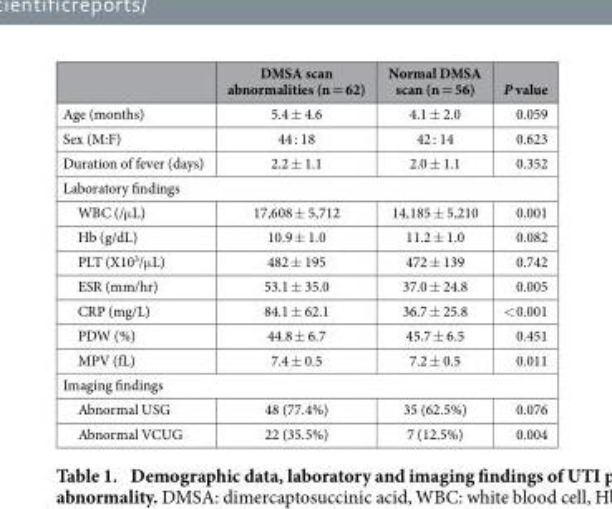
<table><thead><tr><td></td><td>DMSA scan abnormalities (n = 62)</td><td>Normal DMSA scan (n = 56)</td><td>P value</td></tr></thead><tbody><tr><td>Age (months)</td><td>5.4 ± 4.6</td><td>4.1 ± 2.0</td><td>0.059</td></tr><tr><td>Sex (M:F)</td><td>44 : 18</td><td>42 : 14</td><td>0.623</td></tr><tr><td>Duration of fever (days)</td><td>2.2 ± 1.1</td><td>2.0 ± 1.1</td><td>0.352</td></tr><tr><td colspan="4">Laboratory findings</td></tr><tr><td>WBC (/μ L)</td><td>17,608 ± 5,712</td><td>14,185 ± 5,210</td><td>0.001</td></tr><tr><td>Hb (g/dL)</td><td>10.9 ± 1.0</td><td>11.2 ± 1.0</td><td>0.082</td></tr><tr><td>PLT (X10<sup>3</sup>/μ L)</td><td>482 ± 195</td><td>472 ± 139</td><td>0.742</td></tr><tr><td>ESR (mm/hr)</td><td>53.1 ± 35.0</td><td>37.0 ± 24.8</td><td>0.005</td></tr><tr><td>CRP (mg/L)</td><td>84.1 ± 62.1</td><td>36.7 ± 25.8</td><td>&lt; 0.001</td></tr><tr><td>PDW (%)</td><td>44.8 ± 6.7</td><td>45.7 ± 6.5</td><td>0.451</td></tr><tr><td>MPV (fL)</td><td>7.4 ± 0.5</td><td>7.2 ± 0.5</td><td>0.011</td></tr><tr><td colspan="4">Imaging findings</td></tr><tr><td>Abnormal USG</td><td>48 (77.4%)</td><td>35 (62.5%)</td><td>0.076</td></tr><tr><td>Abnormal VCUG</td><td>22 (35.5%)</td><td>7 (12.5%)</td><td>0.004</td></tr></tbody></table>